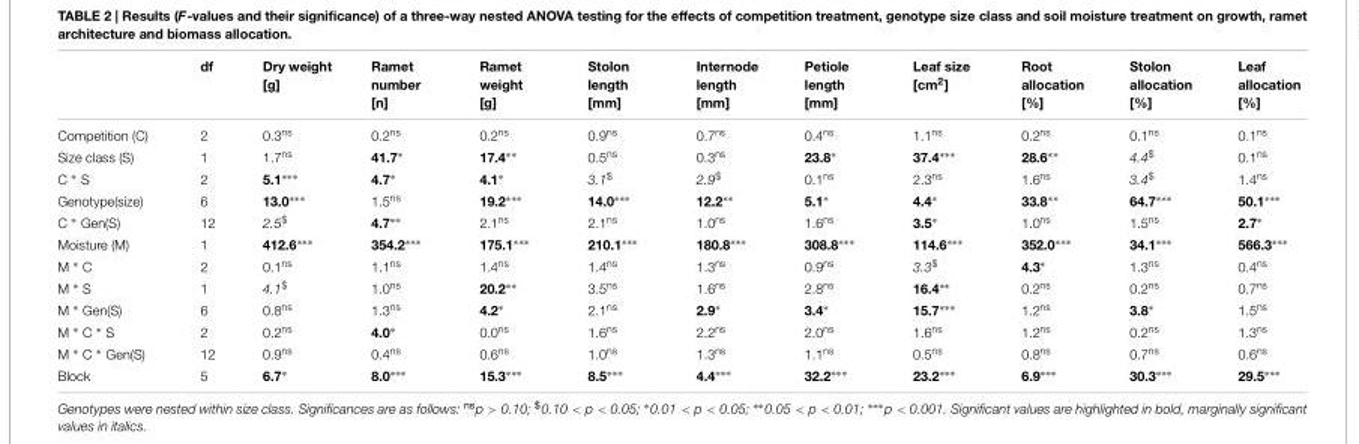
<table><thead><tr><td></td><td>df</td><td>Dry weight [g]</td><td>Ramet number [n]</td><td>Ramet weight [g]</td><td>Stolon length [mm]</td><td>Internode length [mm]</td><td>Petiole length [mm]</td><td>Leaf size [cm<sup>2</sup>]</td><td>Root allocation [%]</td><td>Stolon allocation [%]</td><td>Leaf allocation [%]</td></tr></thead><tbody><tr><td>Competition (C)</td><td>2</td><td>0.3<sup>ns</sup></td><td>0.2<sup>ns</sup></td><td>0.2<sup>ns</sup></td><td>0.9<sup>ns</sup></td><td>0.7<sup>ns</sup></td><td>0.4<sup>ns</sup></td><td>1.1<sup>ns</sup></td><td>0.2<sup>ns</sup></td><td>0.1<sup>ns</sup></td><td>0.1<sup>ns</sup></td></tr><tr><td>Size class (S)</td><td>1</td><td>1.7<sup>ns</sup></td><td>41.7∗</td><td>17.4∗∗</td><td>0.5<sup>ns</sup></td><td>0.3<sup>ns</sup></td><td>23.8∗</td><td>37.4∗∗∗</td><td>28.6∗∗</td><td>4.4<sup>$</sup></td><td>0.1<sup>ns</sup></td></tr><tr><td>C ∗ S</td><td>2</td><td>5.1∗∗∗</td><td>4.7∗</td><td>4.1∗</td><td>3.1<sup>$</sup></td><td>2.9<sup>$</sup></td><td>0.1<sup>ns</sup></td><td>2.3<sup>ns</sup></td><td>1.6<sup>ns</sup></td><td>3.4<sup>$</sup></td><td>1.4<sup>ns</sup></td></tr><tr><td>Genotype(size)</td><td>6</td><td>13.0∗∗∗</td><td>1.5<sup>ns</sup></td><td>19.2∗∗∗</td><td>14.0∗∗∗</td><td>12.2∗∗</td><td>5.1∗</td><td>4.4∗</td><td>33.8∗∗</td><td>64.7∗∗∗</td><td>50.1∗∗∗</td></tr><tr><td>C ∗ Gen(S)</td><td>12</td><td>2.5<sup>$</sup></td><td>4.7∗∗</td><td>2.1<sup>ns</sup></td><td>2.1<sup>ns</sup></td><td>1.0<sup>ns</sup></td><td>1.6<sup>ns</sup></td><td>3.5∗</td><td>1.0<sup>ns</sup></td><td>1.5<sup>ns</sup></td><td>2.7∗</td></tr><tr><td>Moisture (M)</td><td>1</td><td>412.6∗∗∗</td><td>354.2∗∗∗</td><td>175.1∗∗∗</td><td>210.1∗∗∗</td><td>180.8∗∗∗</td><td>308.8∗∗∗</td><td>114.6∗∗∗</td><td>352.0∗∗∗</td><td>34.1∗∗∗</td><td>566.3∗∗∗</td></tr><tr><td>M ∗ C</td><td>2</td><td>0.1<sup>ns</sup></td><td>1.1<sup>ns</sup></td><td>1.4<sup>ns</sup></td><td>1.4<sup>ns</sup></td><td>1.3<sup>ns</sup></td><td>0.9<sup>ns</sup></td><td>3.3<sup>$</sup></td><td>4.3∗</td><td>1.3<sup>ns</sup></td><td>0.4<sup>ns</sup></td></tr><tr><td>M ∗ S</td><td>1</td><td>4.1<sup>$</sup></td><td>1.0<sup>ns</sup></td><td>20.2∗∗</td><td>3.5<sup>ns</sup></td><td>1.6<sup>ns</sup></td><td>2.8<sup>ns</sup></td><td>16.4∗∗</td><td>0.2<sup>ns</sup></td><td>0.2<sup>ns</sup></td><td>0.7<sup>ns</sup></td></tr><tr><td>M ∗ Gen(S)</td><td>6</td><td>0.8<sup>ns</sup></td><td>1.3<sup>ns</sup></td><td>4.2∗</td><td>2.1<sup>ns</sup></td><td>2.9∗</td><td>3.4∗</td><td>15.7∗∗∗</td><td>1.2<sup>ns</sup></td><td>3.8∗</td><td>1.5<sup>ns</sup></td></tr><tr><td>M ∗ C ∗ S</td><td>2</td><td>0.2<sup>ns</sup></td><td>4.0∗</td><td>0.0<sup>ns</sup></td><td>1.6<sup>ns</sup></td><td>2.2<sup>ns</sup></td><td>2.0<sup>ns</sup></td><td>1.6<sup>ns</sup></td><td>1.2<sup>ns</sup></td><td>0.2<sup>ns</sup></td><td>1.3<sup>ns</sup></td></tr><tr><td>M ∗ C ∗ Gen(S)</td><td>12</td><td>0.9<sup>ns</sup></td><td>0.4<sup>ns</sup></td><td>0.6<sup>ns</sup></td><td>1.0<sup>ns</sup></td><td>1.3<sup>ns</sup></td><td>1.1<sup>ns</sup></td><td>0.5<sup>ns</sup></td><td>0.8<sup>ns</sup></td><td>0.7<sup>ns</sup></td><td>0.6<sup>ns</sup></td></tr><tr><td>Block</td><td>5</td><td>6.7∗</td><td>8.0∗∗∗</td><td>15.3∗∗∗</td><td>8.5∗∗∗</td><td>4.4∗∗∗</td><td>32.2∗∗∗</td><td>23.2∗∗∗</td><td>6.9∗∗∗</td><td>30.3∗∗∗</td><td>29.5∗∗∗</td></tr></tbody></table>